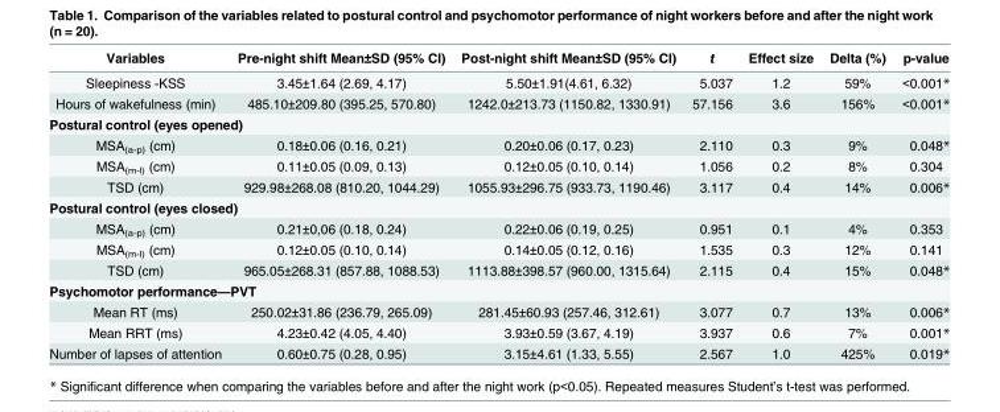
<table><thead><tr><td>Variables</td><td>Pre-night shift Mean±SD (95% CI)</td><td>Post-night shift Mean±SD (95% CI)</td><td>t</td><td>Effect size</td><td>Delta (%)</td><td>p-value</td></tr></thead><tbody><tr><td>Sleepiness -KSS</td><td>3.45±1.64 (2.69, 4.17)</td><td>5.50±1.91(4.61, 6.32)</td><td>5.037</td><td>1.2</td><td>59%</td><td>&lt;0.001*</td></tr><tr><td>Hours of wakefulness (min)</td><td>485.10±209.80 (395.25, 570.80)</td><td>1242.0±213.73 (1150.82, 1330.91)</td><td>57.156</td><td>3.6</td><td>156%</td><td>&lt;0.001*</td></tr><tr><td colspan="7">Postural control (eyes opened)</td></tr><tr><td>MSA<sub>(a-p)</sub> (cm)</td><td>0.18±0.06 (0.16, 0.21)</td><td>0.20±0.06 (0.17, 0.23)</td><td>2.110</td><td>0.3</td><td>9%</td><td>0.048*</td></tr><tr><td>MSA<sub>(m-l)</sub> (cm)</td><td>0.11±0.05 (0.09, 0.13)</td><td>0.12±0.05 (0.10, 0.14)</td><td>1.056</td><td>0.2</td><td>8%</td><td>0.304</td></tr><tr><td>TSD (cm)</td><td>929.98±268.08 (810.20, 1044.29)</td><td>1055.93±296.75 (933.73, 1190.46)</td><td>3.117</td><td>0.4</td><td>14%</td><td>0.006*</td></tr><tr><td colspan="7">Postural control (eyes closed)</td></tr><tr><td>MSA<sub>(a-p)</sub> (cm)</td><td>0.21±0,06 (0.18, 0.24)</td><td>0.22±0.06 (0.19, 0.25)</td><td>0.951</td><td>0.1</td><td>4%</td><td>0.353</td></tr><tr><td>MSA<sub>(m-l)</sub> (cm)</td><td>0.12±0.05 (0.10, 0.14)</td><td>0.14±0.05 (0.12, 0.16)</td><td>1.535</td><td>0.3</td><td>12%</td><td>0.141</td></tr><tr><td>TSD (cm)</td><td>965.05±268.31 (857.88, 1088.53)</td><td>1113.88±398.57 (960.00, 1315.64)</td><td>2.115</td><td>0.4</td><td>15%</td><td>0.048*</td></tr><tr><td colspan="7">Psychomotor performance—PVT</td></tr><tr><td>Mean RT (ms)</td><td>250.02±31.86 (236.79, 265.09)</td><td>281.45±60.93 (257.46, 312.61)</td><td>3.077</td><td>0.7</td><td>13%</td><td>0.006*</td></tr><tr><td>Mean RRT (ms)</td><td>4.23±0.42 (4.05, 4.40)</td><td>3.93±0.59 (3.67, 4.19)</td><td>3.937</td><td>0.6</td><td>7%</td><td>0.001*</td></tr><tr><td>Number of lapses of attention</td><td>0.60±0.75 (0.28, 0.95)</td><td>3.15±4.61 (1.33, 5.55)</td><td>2.567</td><td>1.0</td><td>425%</td><td>0.019*</td></tr></tbody></table>